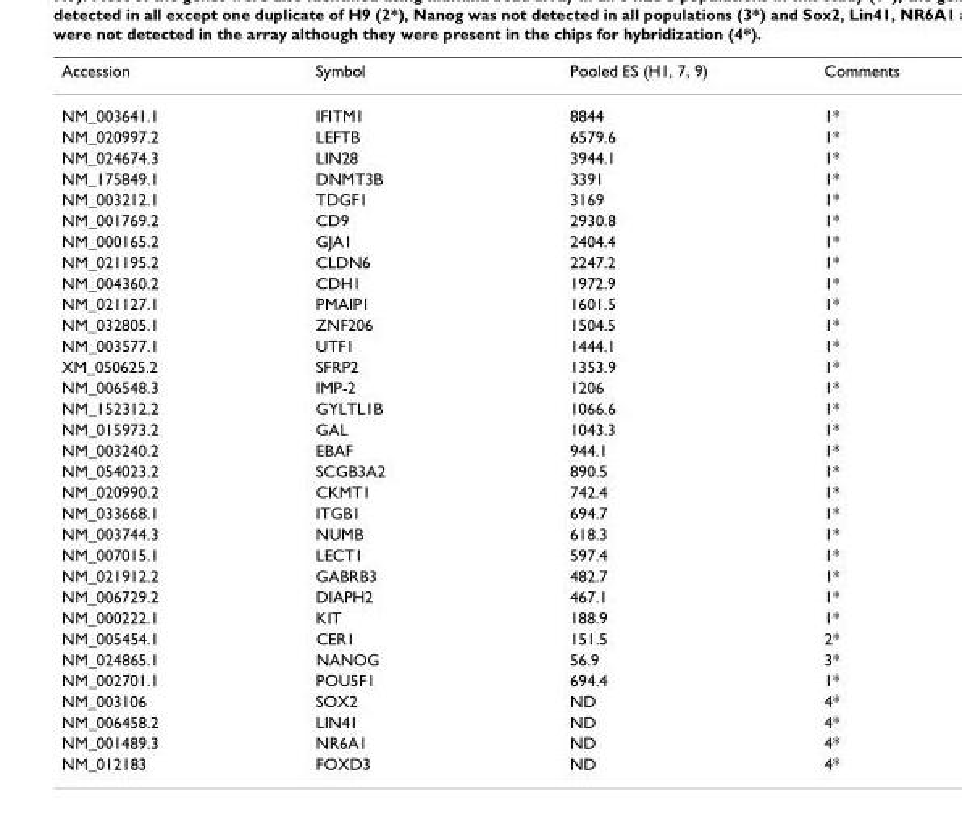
<table><thead><tr><td>Accession</td><td>Symbol</td><td>Pooled ES (H1, 7, 9)</td><td>Comments</td></tr></thead><tbody><tr><td>NM_003641.1</td><td>IFITM1</td><td>8844</td><td>1*</td></tr><tr><td>NM_020997.2</td><td>LEFTB</td><td>6579.6</td><td>1*</td></tr><tr><td>NM_024674.3</td><td>LIN28</td><td>3944.1</td><td>1*</td></tr><tr><td>NM_175849.1</td><td>DNMT3B</td><td>3391</td><td>1*</td></tr><tr><td>NM_003212.1</td><td>TDGF1</td><td>3169</td><td>1*</td></tr><tr><td>NM_001769.2</td><td>CD9</td><td>2930.8</td><td>1*</td></tr><tr><td>NM_000165.2</td><td>GJA1</td><td>2404.4</td><td>1*</td></tr><tr><td>NM_021195.2</td><td>CLDN6</td><td>2247.2</td><td>1*</td></tr><tr><td>NM_004360.2</td><td>CDH1</td><td>1972.9</td><td>1*</td></tr><tr><td>NM_021127.1</td><td>PMAIP1</td><td>1601.5</td><td>1*</td></tr><tr><td>NM_032805.1</td><td>ZNF206</td><td>1504.5</td><td>1*</td></tr><tr><td>NM_003577.1</td><td>UTF1</td><td>1444.1</td><td>1*</td></tr><tr><td>XM_050625.2</td><td>SFRP2</td><td>1353.9</td><td>1*</td></tr><tr><td>NM_006548.3</td><td>IMP-2</td><td>1206</td><td>1*</td></tr><tr><td>NM_152312.2</td><td>GYLTL1B</td><td>1066.6</td><td>1*</td></tr><tr><td>NM_015973.2</td><td>GAL</td><td>1043.3</td><td>1*</td></tr><tr><td>NM_003240.2</td><td>EBAF</td><td>944.1</td><td>1*</td></tr><tr><td>NM_054023.2</td><td>SCGB3A2</td><td>890.5</td><td>1*</td></tr><tr><td>NM_020990.2</td><td>CKMT1</td><td>742.4</td><td>1*</td></tr><tr><td>NM_033668.1</td><td>ITGB1</td><td>694.7</td><td>1*</td></tr><tr><td>NM_003744.3</td><td>NUMB</td><td>618.3</td><td>1*</td></tr><tr><td>NM_007015.1</td><td>LECT1</td><td>597.4</td><td>1*</td></tr><tr><td>NM_021912.2</td><td>GABRB3</td><td>482.7</td><td>1*</td></tr><tr><td>NM_006729.2</td><td>DIAPH2</td><td>467.1</td><td>1*</td></tr><tr><td>NM_000222.1</td><td>KIT</td><td>188.9</td><td>1*</td></tr><tr><td>NM_005454.1</td><td>CER1</td><td>151.5</td><td>2*</td></tr><tr><td>NM_024865.1</td><td>NANOG</td><td>56.9</td><td>3*</td></tr><tr><td>NM_002701.1</td><td>POU5F1</td><td>694.4</td><td>1*</td></tr><tr><td>NM_003106</td><td>SOX2</td><td>ND</td><td>4*</td></tr><tr><td>NM_006458.2</td><td>LIN41</td><td>ND</td><td>4*</td></tr><tr><td>NM_001489.3</td><td>NR6A1</td><td>ND</td><td>4*</td></tr><tr><td>NM_012183</td><td>FOXD3</td><td>ND</td><td>4*</td></tr></tbody></table>